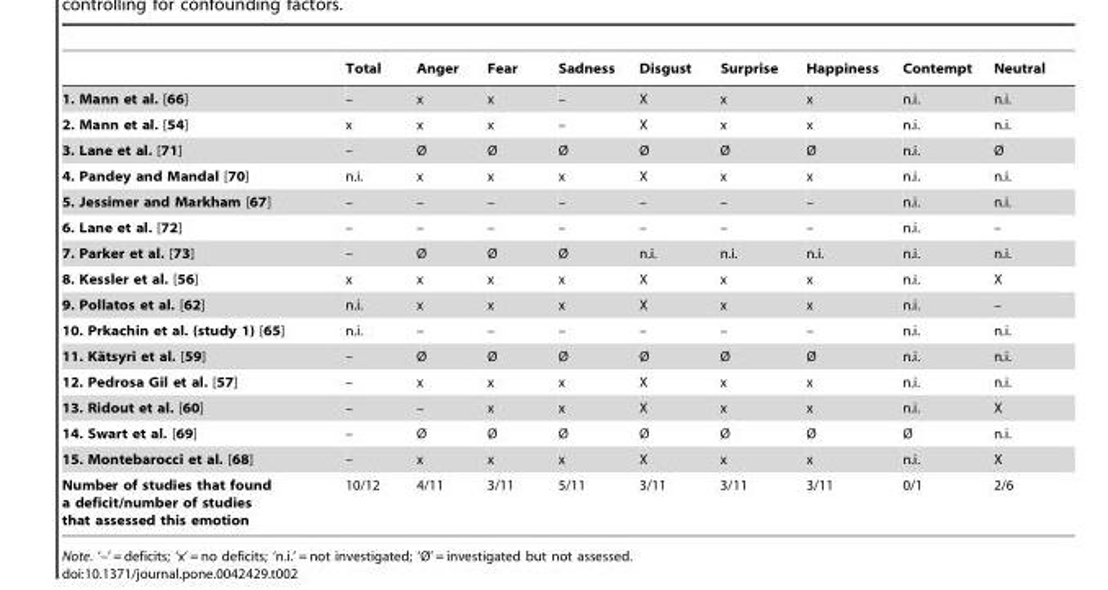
<table><thead><tr><td></td><td>Total</td><td>Anger</td><td>Fear</td><td>Sadness</td><td>Disgust</td><td>Surprise</td><td>Happiness</td><td>Contempt</td><td>Neutral</td></tr></thead><tbody><tr><td>1. Mann et al. [66]</td><td>–</td><td>x</td><td>x</td><td>–</td><td>X</td><td>x</td><td>x</td><td>n.i.</td><td>n.i.</td></tr><tr><td>2. Mann et al. [54]</td><td>x</td><td>x</td><td>x</td><td>–</td><td>X</td><td>x</td><td>x</td><td>n.i.</td><td>n.i.</td></tr><tr><td>3. Lane et al. [71]</td><td>–</td><td>Ø</td><td>Ø</td><td>Ø</td><td>Ø</td><td>Ø</td><td>Ø</td><td>n.i.</td><td>Ø</td></tr><tr><td>4. Pandey and Mandal [70]</td><td>n.i.</td><td>x</td><td>x</td><td>x</td><td>X</td><td>x</td><td>x</td><td>n.i.</td><td>n.i.</td></tr><tr><td>5. Jessimer and Markham [67]</td><td>–</td><td>–</td><td>–</td><td>–</td><td>–</td><td>–</td><td>–</td><td>n.i.</td><td>n.i.</td></tr><tr><td>6. Lane et al. [72]</td><td>–</td><td>–</td><td>–</td><td>–</td><td>–</td><td>–</td><td>–</td><td>n.i.</td><td>–</td></tr><tr><td>7. Parker et al. [73]</td><td>–</td><td>Ø</td><td>Ø</td><td>Ø</td><td>n.i.</td><td>n.i.</td><td>n.i.</td><td>n.i.</td><td>n.i.</td></tr><tr><td>8. Kessler et al. [56]</td><td>x</td><td>x</td><td>x</td><td>x</td><td>X</td><td>x</td><td>x</td><td>n.i.</td><td>X</td></tr><tr><td>9. Pollatos et al. [62]</td><td>n.i.</td><td>x</td><td>x</td><td>x</td><td>X</td><td>x</td><td>x</td><td>n.i.</td><td>–</td></tr><tr><td>10. Prkachin et al. (study 1) [65]</td><td>n.i.</td><td>–</td><td>–</td><td>–</td><td>–</td><td>–</td><td>–</td><td>n.i.</td><td>n.i.</td></tr><tr><td>11. Ka¨tsyri et al. [59]</td><td>–</td><td>Ø</td><td>Ø</td><td>Ø</td><td>Ø</td><td>Ø</td><td>Ø</td><td>n.i.</td><td>n.i.</td></tr><tr><td>12. Pedrosa Gil et al. [57]</td><td>–</td><td>x</td><td>x</td><td>x</td><td>X</td><td>x</td><td>x</td><td>n.i.</td><td>n.i.</td></tr><tr><td>13. Ridout et al. [60]</td><td>–</td><td>–</td><td>x</td><td>x</td><td>X</td><td>x</td><td>x</td><td>n.i.</td><td>X</td></tr><tr><td>14. Swart et al. [69]</td><td>–</td><td>Ø</td><td>Ø</td><td>Ø</td><td>Ø</td><td>Ø</td><td>Ø</td><td>Ø</td><td>n.i.</td></tr><tr><td>15. Montebarocci et al. [68]</td><td>–</td><td>x</td><td>x</td><td>x</td><td>X</td><td>x</td><td>x</td><td>n.i.</td><td>X</td></tr><tr><td>Number of studies that found a deficit/number of studies that assessed this emotion</td><td>10/12</td><td>4/11</td><td>3/11</td><td>5/11</td><td>3/11</td><td>3/11</td><td>3/11</td><td>0/1</td><td>2/6</td></tr></tbody></table>